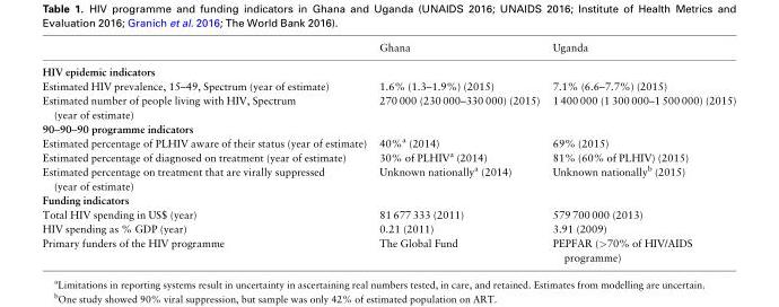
<table><thead><tr><td></td><td>Ghana</td><td>Uganda</td></tr></thead><tbody><tr><td colspan="3">HIV epidemic indicators</td></tr><tr><td>Estimated HIV prevalence, 15–49, Spectrum (year of estimate)</td><td>1.6% (1.3–1.9%) (2015)</td><td>7.1% (6.6–7.7%) (2015)</td></tr><tr><td>Estimated number of people living with HIV, Spectrum (year of estimate)</td><td>270 000 (230 000–330 000) (2015)</td><td>1 400 000 (1 300 000–1 500 000) (2015)</td></tr><tr><td colspan="3">90–90–90 programme indicators</td></tr><tr><td>Estimated percentage of PLHIV aware of their status (year of estimate)</td><td>40%<sup>a</sup> (2014)</td><td>69% (2015)</td></tr><tr><td>Estimated percentage of diagnosed on treatment (year of estimate)</td><td>30% of PLHIV<sup>a</sup> (2014)</td><td>81% (60% of PLHIV) (2015)</td></tr><tr><td>Estimated percentage on treatment that are virally suppressed (year of estimate)</td><td>Unknown nationally<sup>a</sup> (2014)</td><td>Unknown nationally<sup>b</sup> (2015)</td></tr><tr><td colspan="3">Funding indicators</td></tr><tr><td>Total HIV spending in US$ (year)</td><td>81 677 333 (2011)</td><td>579 700 000 (2013)</td></tr><tr><td>HIV spending as % GDP (year)</td><td>0.21 (2011)</td><td>3.91 (2009)</td></tr><tr><td>Primary funders of the HIV programme</td><td>The Global Fund</td><td>PEPFAR (&gt;70% of HIV/AIDS programme)</td></tr></tbody></table>